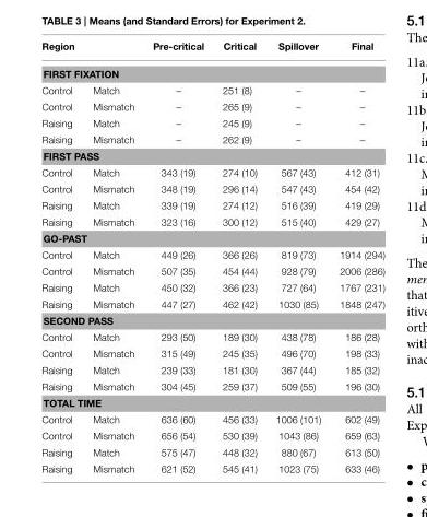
<table><thead><tr><td>Region</td><td></td><td>Pre-critical</td><td>Critical</td><td>Spillover</td><td>Final</td></tr></thead><tbody><tr><td colspan="6">FIRST FIXATION</td></tr><tr><td>Control</td><td>Match</td><td>–</td><td>251 (8)</td><td>–</td><td>–</td></tr><tr><td>Control</td><td>Mismatch</td><td>–</td><td>265 (9)</td><td>–</td><td>–</td></tr><tr><td>Raising</td><td>Match</td><td>–</td><td>245 (9)</td><td>–</td><td>–</td></tr><tr><td>Raising</td><td>Mismatch</td><td>–</td><td>262 (9)</td><td>–</td><td>–</td></tr><tr><td colspan="6">FIRST PASS</td></tr><tr><td>Control</td><td>Match</td><td>343 (19)</td><td>274 (10)</td><td>567 (43)</td><td>412 (31)</td></tr><tr><td>Control</td><td>Mismatch</td><td>348 (19)</td><td>296 (14)</td><td>547 (43)</td><td>454 (42)</td></tr><tr><td>Raising</td><td>Match</td><td>339 (19)</td><td>274 (12)</td><td>516 (39)</td><td>419 (29)</td></tr><tr><td>Raising</td><td>Mismatch</td><td>323 (16)</td><td>300 (12)</td><td>515 (40)</td><td>429 (27)</td></tr><tr><td colspan="6">GO-PAST</td></tr><tr><td>Control</td><td>Match</td><td>449 (26)</td><td>366 (26)</td><td>819 (73)</td><td>1914 (294)</td></tr><tr><td>Control</td><td>Mismatch</td><td>507 (35)</td><td>454 (44)</td><td>928 (79)</td><td>2006 (286)</td></tr><tr><td>Raising</td><td>Match</td><td>450 (32)</td><td>366 (23)</td><td>727 (64)</td><td>1767 (231)</td></tr><tr><td>Raising</td><td>Mismatch</td><td>447 (27)</td><td>462 (42)</td><td>1030 (85)</td><td>1848 (247)</td></tr><tr><td colspan="6">SECOND PASS</td></tr><tr><td>Control</td><td>Match</td><td>293 (50)</td><td>189 (30)</td><td>438 (78)</td><td>186 (28)</td></tr><tr><td>Control</td><td>Mismatch</td><td>315 (49)</td><td>245 (35)</td><td>496 (70)</td><td>198 (33)</td></tr><tr><td>Raising</td><td>Match</td><td>239 (33)</td><td>181 (30)</td><td>367 (44)</td><td>185 (32)</td></tr><tr><td>Raising</td><td>Mismatch</td><td>304 (45)</td><td>259 (37)</td><td>509 (55)</td><td>196 (30)</td></tr><tr><td colspan="6">TOTAL TIME</td></tr><tr><td>Control</td><td>Match</td><td>636 (60)</td><td>456 (33)</td><td>1006 (101)</td><td>602 (49)</td></tr><tr><td>Control</td><td>Mismatch</td><td>656 (54)</td><td>530 (39)</td><td>1043 (86)</td><td>659 (63)</td></tr><tr><td>Raising</td><td>Match</td><td>575 (47)</td><td>448 (32)</td><td>880 (67)</td><td>613 (50)</td></tr><tr><td>Raising</td><td>Mismatch</td><td>621 (52)</td><td>545 (41)</td><td>1023 (75)</td><td>633 (46)</td></tr></tbody></table>